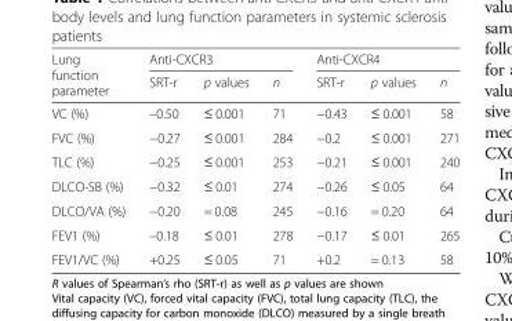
<table><thead><tr><td rowspan="2">Lung function parameter</td><td colspan="3">Anti-CXCR3</td><td colspan="3">Anti-CXCR4</td></tr><tr><td>SRT-r</td><td>p values</td><td>n</td><td>SRT-r</td><td>p values</td><td>n</td></tr></thead><tbody><tr><td>VC (%)</td><td>–0.50</td><td>≤ 0.001</td><td>71</td><td>−0.43</td><td>≤ 0.001</td><td>58</td></tr><tr><td>FVC (%)</td><td>−0.27</td><td>≤ 0.001</td><td>284</td><td>−0.2</td><td>≤ 0.001</td><td>271</td></tr><tr><td>TLC (%)</td><td>−0.25</td><td>≤ 0.001</td><td>253</td><td>−0.21</td><td>≤ 0.001</td><td>240</td></tr><tr><td>DLCO-SB (%)</td><td>−0.32</td><td>≤ 0.01</td><td>274</td><td>−0.26</td><td>≤ 0.05</td><td>64</td></tr><tr><td>DLCO/VA (%)</td><td>−0.20</td><td>= 0.08</td><td>245</td><td>−0.16</td><td>= 0.20</td><td>64</td></tr><tr><td>FEV1 (%)</td><td>–0.18</td><td>≤ 0.01</td><td>278</td><td>−0.17</td><td>≤ 0.01</td><td>265</td></tr><tr><td>FEV1/VC (%)</td><td>+0.25</td><td>≤ 0.05</td><td>71</td><td>+0.2</td><td>= 0.13</td><td>58</td></tr></tbody></table>